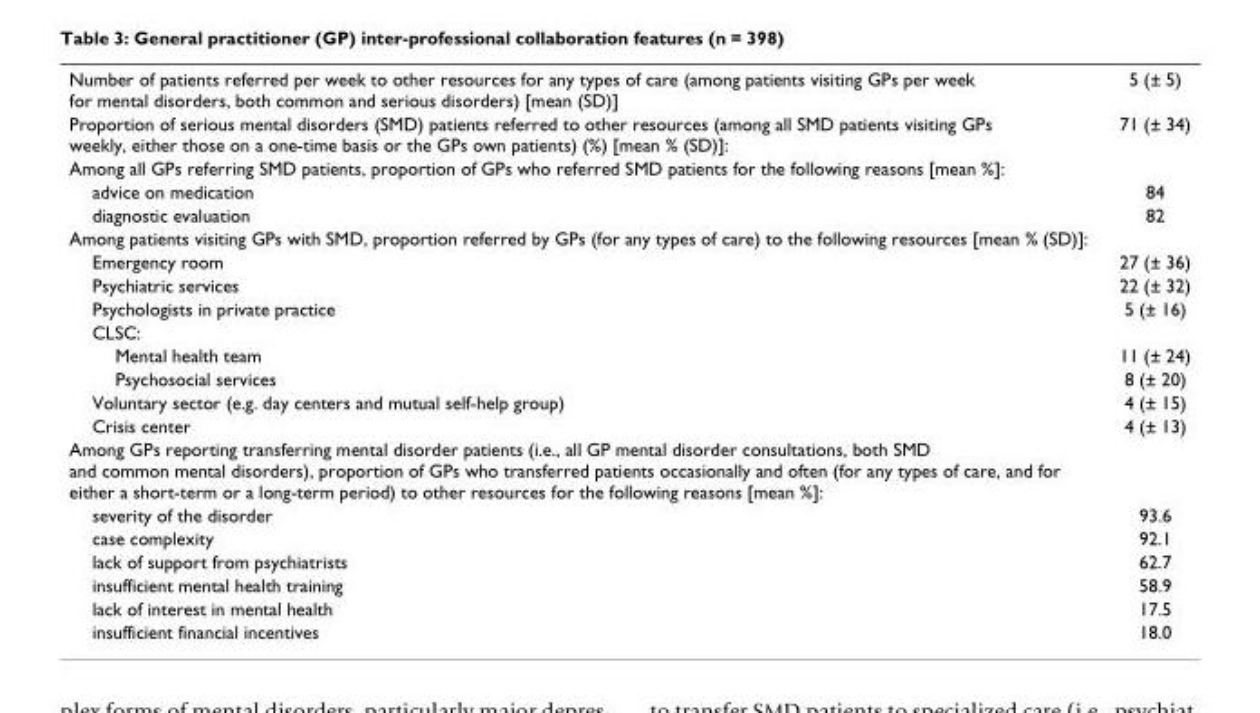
<table><tbody><tr><td>Number of patients referred per week to other resources for any types of care (among patients visiting GPs per week for mental disorders, both common and serious disorders) [mean (SD)]</td><td>5 (± 5)</td></tr><tr><td>Proportion of serious mental disorders (SMD) patients referred to other resources (among all SMD patients visiting GPs weekly, either those on a one-time basis or the GPs own patients) (%) [mean % (SD)]:</td><td>71 (± 34)</td></tr><tr><td colspan="2">Among all GPs referring SMD patients, proportion of GPs who referred SMD patients for the following reasons [mean %]:</td></tr><tr><td>advice on medication</td><td>84</td></tr><tr><td>diagnostic evaluation</td><td>82</td></tr><tr><td colspan="2">Among patients visiting GPs with SMD, proportion referred by GPs (for any types of care) to the following resources [mean % (SD)]:</td></tr><tr><td>Emergency room</td><td>27 (± 36)</td></tr><tr><td>Psychiatric services</td><td>22 (± 32)</td></tr><tr><td>Psychologists in private practice</td><td>5 (± 16)</td></tr><tr><td colspan="2">CLSC:</td></tr><tr><td>Mental health team</td><td>11 (± 24)</td></tr><tr><td>Psychosocial services</td><td>8 (± 20)</td></tr><tr><td>Voluntary sector (e.g. day centers and mutual self-help group)</td><td>4 (± 15)</td></tr><tr><td>Crisis center</td><td>4 (± 13)</td></tr><tr><td colspan="2">Among GPs reporting transferring mental disorder patients (i.e., all GP mental disorder consultations, both SMD and common mental disorders), proportion of GPs who transferred patients occasionally and often (for any types of care, and for either a short-term or a long-term period) to other resources for the following reasons [mean %]:</td></tr><tr><td>severity of the disorder</td><td>93.6</td></tr><tr><td>case complexity</td><td>92.1</td></tr><tr><td>lack of support from psychiatrists</td><td>62.7</td></tr><tr><td>insufficient mental health training</td><td>58.9</td></tr><tr><td>lack of interest in mental health</td><td>17.5</td></tr><tr><td>insufficient financial incentives</td><td>18.0</td></tr></tbody></table>